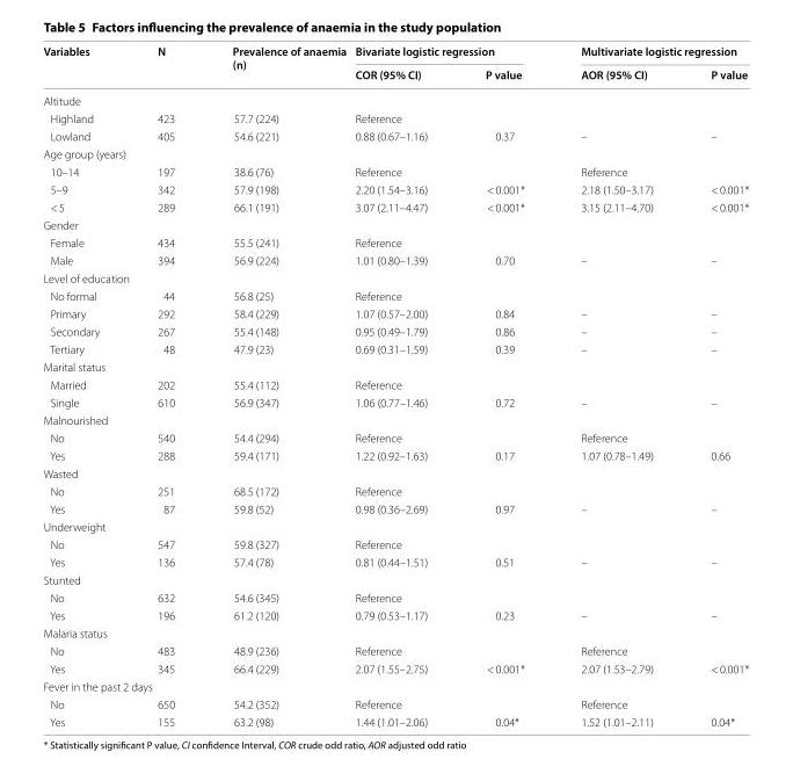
<table><thead><tr><td rowspan="2">Variables</td><td rowspan="2">N</td><td rowspan="2">Prevalence of anaemia (n)</td><td colspan="2">Bivariate logistic regression</td><td colspan="2">Multivariate logistic regression</td></tr><tr><td>COR (95% CI)</td><td>P value</td><td>AOR (95% CI)</td><td>P value</td></tr></thead><tbody><tr><td colspan="7">Altitude</td></tr><tr><td>Highland</td><td>423</td><td>57.7 (224)</td><td>Reference</td><td></td><td></td><td></td></tr><tr><td>Lowland</td><td>405</td><td>54.6 (221)</td><td>0.88 (0.67–1.16)</td><td>0.37</td><td>–</td><td>–</td></tr><tr><td colspan="7">Age group (years)</td></tr><tr><td>10–14</td><td>197</td><td>38.6 (76)</td><td>Reference</td><td></td><td>Reference</td><td></td></tr><tr><td>5–9</td><td>342</td><td>57.9 (198)</td><td>2.20 (1.54–3.16)</td><td>&lt; 0.001*</td><td>2.18 (1.50–3.17)</td><td>&lt; 0.001*</td></tr><tr><td>&lt; 5</td><td>289</td><td>66.1 (191)</td><td>3.07 (2.11–4.47)</td><td>&lt; 0.001*</td><td>3.15 (2.11–4.70)</td><td>&lt; 0.001*</td></tr><tr><td colspan="7">Gender</td></tr><tr><td>Female</td><td>434</td><td>55.5 (241)</td><td>Reference</td><td></td><td></td><td></td></tr><tr><td>Male</td><td>394</td><td>56.9 (224)</td><td>1.01 (0.80–1.39)</td><td>0.70</td><td>–</td><td>–</td></tr><tr><td colspan="7">Level of education</td></tr><tr><td>No formal</td><td>44</td><td>56.8 (25)</td><td>Reference</td><td></td><td></td><td></td></tr><tr><td>Primary</td><td>292</td><td>58.4 (229)</td><td>1.07 (0.57–2.00)</td><td>0.84</td><td>–</td><td>–</td></tr><tr><td>Secondary</td><td>267</td><td>55.4 (148)</td><td>0.95 (0.49–1.79)</td><td>0.86</td><td>–</td><td>–</td></tr><tr><td>Tertiary</td><td>48</td><td>47.9 (23)</td><td>0.69 (0.31–1.59)</td><td>0.39</td><td>–</td><td>–</td></tr><tr><td colspan="7">Marital status</td></tr><tr><td>Married</td><td>202</td><td>55.4 (112)</td><td>Reference</td><td></td><td></td><td></td></tr><tr><td>Single</td><td>610</td><td>56.9 (347)</td><td>1.06 (0.77–1.46)</td><td>0.72</td><td>–</td><td>–</td></tr><tr><td colspan="7">Malnourished</td></tr><tr><td>No</td><td>540</td><td>54.4 (294)</td><td>Reference</td><td></td><td>Reference</td><td></td></tr><tr><td>Yes</td><td>288</td><td>59.4 (171)</td><td>1.22 (0.92–1.63)</td><td>0.17</td><td>1.07 (0.78–1.49)</td><td>0.66</td></tr><tr><td colspan="7">Wasted</td></tr><tr><td>No</td><td>251</td><td>68.5 (172)</td><td>Reference</td><td></td><td></td><td></td></tr><tr><td>Yes</td><td>87</td><td>59.8 (52)</td><td>0.98 (0.36–2.69)</td><td>0.97</td><td>–</td><td>–</td></tr><tr><td colspan="7">Underweight</td></tr><tr><td>No</td><td>547</td><td>59.8 (327)</td><td>Reference</td><td></td><td></td><td></td></tr><tr><td>Yes</td><td>136</td><td>57.4 (78)</td><td>0.81 (0.44–1.51)</td><td>0.51</td><td>–</td><td>–</td></tr><tr><td colspan="7">Stunted</td></tr><tr><td>No</td><td>632</td><td>54.6 (345)</td><td>Reference</td><td></td><td></td><td></td></tr><tr><td>Yes</td><td>196</td><td>61.2 (120)</td><td>0.79 (0.53–1.17)</td><td>0.23</td><td>–</td><td>–</td></tr><tr><td colspan="7">Malaria status</td></tr><tr><td>No</td><td>483</td><td>48.9 (236)</td><td>Reference</td><td></td><td>Reference</td><td></td></tr><tr><td>Yes</td><td>345</td><td>66.4 (229)</td><td>2.07 (1.55–2.75)</td><td>&lt; 0.001*</td><td>2.07 (1.53–2.79)</td><td>&lt; 0.001*</td></tr><tr><td colspan="7">Fever in the past 2 days</td></tr><tr><td>No</td><td>650</td><td>54.2 (352)</td><td>Reference</td><td></td><td>Reference</td><td></td></tr><tr><td>Yes</td><td>155</td><td>63.2 (98)</td><td>1.44 (1.01–2.06)</td><td>0.04*</td><td>1.52 (1.01–2.11)</td><td>0.04*</td></tr></tbody></table>